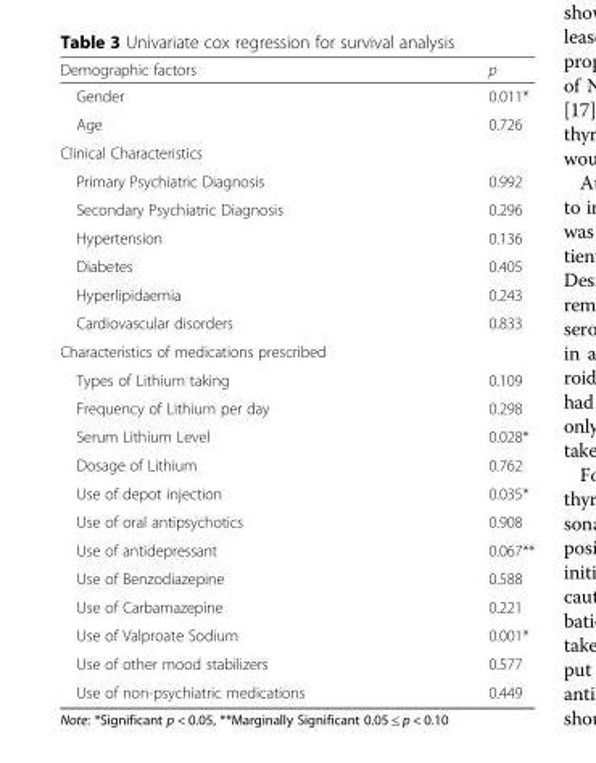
<table><thead><tr><td>Demographic factors</td><td>p</td></tr></thead><tbody><tr><td>Gender</td><td>0.011*</td></tr><tr><td>Age</td><td>0.726</td></tr><tr><td colspan="2">Clinical Characteristics</td></tr><tr><td>Primary Psychiatric Diagnosis</td><td>0.992</td></tr><tr><td>Secondary Psychiatric Diagnosis</td><td>0.296</td></tr><tr><td>Hypertension</td><td>0.136</td></tr><tr><td>Diabetes</td><td>0.405</td></tr><tr><td>Hyperlipidaemia</td><td>0.243</td></tr><tr><td>Cardiovascular disorders</td><td>0.833</td></tr><tr><td colspan="2">Characteristics of medications prescribed</td></tr><tr><td>Types of Lithium taking</td><td>0.109</td></tr><tr><td>Frequency of Lithium per day</td><td>0.298</td></tr><tr><td>Serum Lithium Level</td><td>0.028*</td></tr><tr><td>Dosage of Lithium</td><td>0.762</td></tr><tr><td>Use of depot injection</td><td>0.035*</td></tr><tr><td>Use of oral antipsychotics</td><td>0.908</td></tr><tr><td>Use of antidepressant</td><td>0.067**</td></tr><tr><td>Use of Benzodiazepine</td><td>0.588</td></tr><tr><td>Use of Carbamazepine</td><td>0.221</td></tr><tr><td>Use of Valproate Sodium</td><td>0.001*</td></tr><tr><td>Use of other mood stabilizers</td><td>0.577</td></tr><tr><td>Use of non-psychiatric medications</td><td>0.449</td></tr></tbody></table>